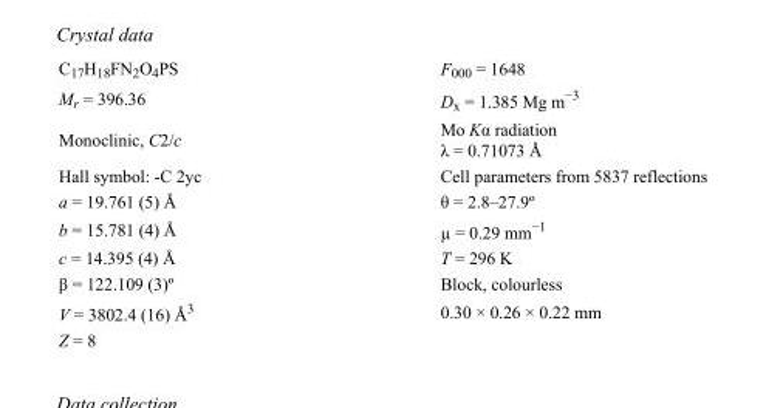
<table><tbody><tr><td>C<sub>17</sub>H<sub>18</sub>FN<sub>2</sub>O<sub>4</sub>PS</td><td>F000 = 1648</td></tr><tr><td>M<sub>r</sub> = 396.36</td><td>D<sub>x</sub> = 1.385 Mg m<sup>−3</sup></td></tr><tr><td>Monoclinic, C2/c</td><td>Mo Kα radiation λ = 0.71073 Å</td></tr><tr><td>Hall symbol: -C 2yc</td><td>Cell parameters from 5837 reflections</td></tr><tr><td>a = 19.761 (5) Å</td><td>θ = 2.8–27.9º</td></tr><tr><td>b = 15.781 (4) Å</td><td>µ = 0.29 mm<sup>−1</sup></td></tr><tr><td>c = 14.395 (4) Å</td><td>T = 296 K</td></tr><tr><td>β = 122.109 (3)º</td><td>Block, colourless</td></tr><tr><td>V = 3802.4 (16) Å<sup>3</sup></td><td>0.30 × 0.26 × 0.22 mm</td></tr><tr><td>Z = 8</td><td></td></tr></tbody></table>